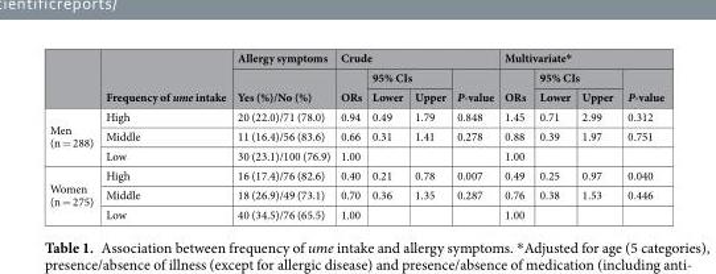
<table><thead><tr><td rowspan="3"></td><td rowspan="3">Frequency of ume intake</td><td rowspan="3">Allergy symptoms Yes (%)/No (%)</td><td colspan="4">Crude</td><td colspan="4">Multivariate*</td></tr><tr><td rowspan="2">ORs</td><td colspan="2">95% CIs</td><td rowspan="2">P-value</td><td rowspan="2">ORs</td><td colspan="2">95% CIs</td><td rowspan="2">P-value</td></tr><tr><td>Lower</td><td>Upper</td><td>Lower</td><td>Upper</td></tr></thead><tbody><tr><td rowspan="3">Men (n = 288)</td><td>High</td><td>20 (22.0)/71 (78.0)</td><td>0.94</td><td>0.49</td><td>1.79</td><td>0.848</td><td>1.45</td><td>0.71</td><td>2.99</td><td>0.312</td></tr><tr><td>Middle</td><td>11 (16.4)/56 (83.6)</td><td>0.66</td><td>0.31</td><td>1.41</td><td>0.278</td><td>0.88</td><td>0.39</td><td>1.97</td><td>0.751</td></tr><tr><td>Low</td><td>30 (23.1)/100 (76.9)</td><td>1.00</td><td></td><td></td><td></td><td>1.00</td><td></td><td></td><td></td></tr><tr><td rowspan="3">Women (n = 275)</td><td>High</td><td>16 (17.4)/76 (82.6)</td><td>0.40</td><td>0.21</td><td>0.78</td><td>0.007</td><td>0.49</td><td>0.25</td><td>0.97</td><td>0.040</td></tr><tr><td>Middle</td><td>18 (26.9)/49 (73.1)</td><td>0.70</td><td>0.36</td><td>1.35</td><td>0.287</td><td>0.76</td><td>0.38</td><td>1.53</td><td>0.446</td></tr><tr><td>Low</td><td>40 (34.5)/76 (65.5)</td><td>1.00</td><td></td><td></td><td></td><td>1.00</td><td></td><td></td><td></td></tr></tbody></table>